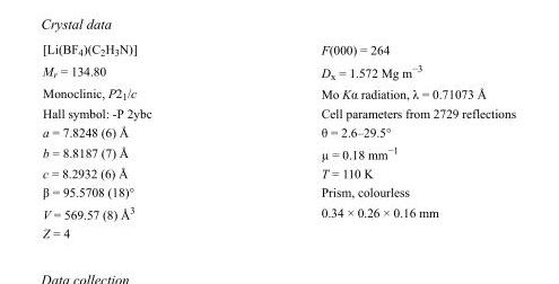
<table><tbody><tr><td>[Li(BF<sub>4</sub>)(C<sub>2</sub>H<sub>3</sub>N)]</td><td>F(000) = 264</td></tr><tr><td>M<sub>r</sub> = 134.80</td><td>D<sub>x</sub> = 1.572 Mg m<sup>−3</sup></td></tr><tr><td>Monoclinic, P2<sub>1</sub>/c</td><td>Mo Kα radiation, λ = 0.71073 Å</td></tr><tr><td>Hall symbol: -P 2ybc</td><td>Cell parameters from 2729 reflections</td></tr><tr><td>a = 7.8248 (6) Å</td><td>θ = 2.6–29.5°</td></tr><tr><td>b = 8.8187 (7) Å</td><td>µ = 0.18 mm<sup>−1</sup></td></tr><tr><td>c = 8.2932 (6) Å</td><td>T = 110 K</td></tr><tr><td>β = 95.5708 (18)°</td><td>Prism, colourless</td></tr><tr><td>V = 569.57 (8) Å<sup>3</sup></td><td>0.34 × 0.26 × 0.16 mm</td></tr><tr><td>Z = 4</td><td></td></tr></tbody></table>